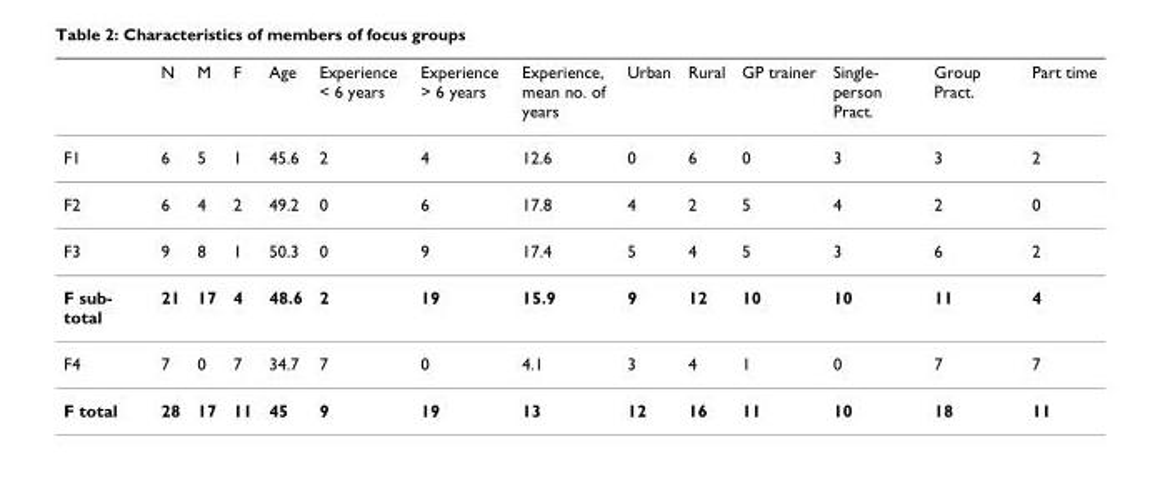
<table><thead><tr><td></td><td>N</td><td>M</td><td>F</td><td>Age</td><td>Experience &lt; 6 years</td><td>Experience &gt; 6 years</td><td>Experience, mean no. of years</td><td>Urban</td><td>Rural</td><td>GP trainer</td><td>Single- person Pract.</td><td>Group Pract.</td><td>Part time</td></tr></thead><tbody><tr><td>F1</td><td>6</td><td>5</td><td>1</td><td>45.6</td><td>2</td><td>4</td><td>12.6</td><td>0</td><td>6</td><td>0</td><td>3</td><td>3</td><td>2</td></tr><tr><td>F2</td><td>6</td><td>4</td><td>2</td><td>49.2</td><td>0</td><td>6</td><td>17.8</td><td>4</td><td>2</td><td>5</td><td>4</td><td>2</td><td>0</td></tr><tr><td>F3</td><td>9</td><td>8</td><td>1</td><td>50.3</td><td>0</td><td>9</td><td>17.4</td><td>5</td><td>4</td><td>5</td><td>3</td><td>6</td><td>2</td></tr><tr><td>F sub- total</td><td>21</td><td>17</td><td>4</td><td>48.6</td><td>2</td><td>19</td><td>15.9</td><td>9</td><td>12</td><td>10</td><td>10</td><td>11</td><td>4</td></tr><tr><td>F4</td><td>7</td><td>0</td><td>7</td><td>34.7</td><td>7</td><td>0</td><td>4.1</td><td>3</td><td>4</td><td>1</td><td>0</td><td>7</td><td>7</td></tr><tr><td>F total</td><td>28</td><td>17</td><td>11</td><td>45</td><td>9</td><td>19</td><td>13</td><td>12</td><td>16</td><td>11</td><td>10</td><td>18</td><td>11</td></tr></tbody></table>